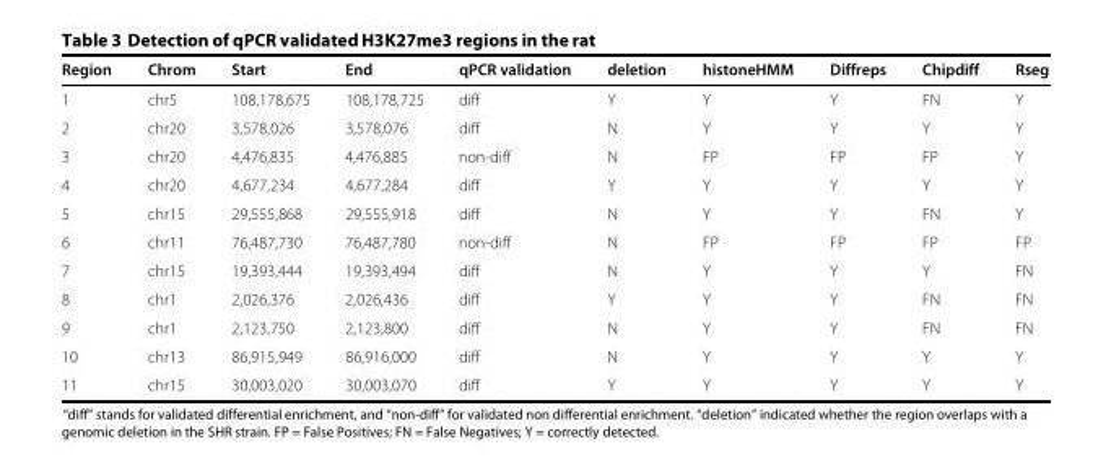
<table><thead><tr><td>Region</td><td>Chrom</td><td>Start</td><td>End</td><td>qPCR validation</td><td>deletion</td><td>histoneHMM</td><td>Diffreps</td><td>Chipdiff</td><td>Rseg</td></tr></thead><tbody><tr><td>1</td><td>chr5</td><td>108,178,675</td><td>108,178,725</td><td>diff</td><td>Y</td><td>Y</td><td>Y</td><td>FN</td><td>Y</td></tr><tr><td>2</td><td>chr20</td><td>3,578,026</td><td>3,578,076</td><td>diff</td><td>N</td><td>Y</td><td>Y</td><td>Y</td><td>Y</td></tr><tr><td>3</td><td>chr20</td><td>4,476,835</td><td>4,476,885</td><td>non-diff</td><td>N</td><td>FP</td><td>FP</td><td>FP</td><td>Y</td></tr><tr><td>4</td><td>chr20</td><td>4,677,234</td><td>4,677,284</td><td>diff</td><td>Y</td><td>Y</td><td>Y</td><td>Y</td><td>Y</td></tr><tr><td>5</td><td>chr15</td><td>29,555,868</td><td>29,555,918</td><td>diff</td><td>N</td><td>Y</td><td>Y</td><td>FN</td><td>Y</td></tr><tr><td>6</td><td>chr11</td><td>76,487,730</td><td>76,487,780</td><td>non-diff</td><td>N</td><td>FP</td><td>FP</td><td>FP</td><td>FP</td></tr><tr><td>7</td><td>chr15</td><td>19,393,444</td><td>19,393,494</td><td>diff</td><td>N</td><td>Y</td><td>Y</td><td>Y</td><td>FN</td></tr><tr><td>8</td><td>chr1</td><td>2,026,376</td><td>2,026,436</td><td>diff</td><td>Y</td><td>Y</td><td>Y</td><td>FN</td><td>FN</td></tr><tr><td>9</td><td>chr1</td><td>2,123,750</td><td>2,123,800</td><td>diff</td><td>N</td><td>Y</td><td>Y</td><td>FN</td><td>FN</td></tr><tr><td>10</td><td>chr13</td><td>86,915,949</td><td>86,916,000</td><td>diff</td><td>N</td><td>Y</td><td>Y</td><td>Y</td><td>Y</td></tr><tr><td>11</td><td>chr15</td><td>30,003,020</td><td>30,003,070</td><td>diff</td><td>Y</td><td>Y</td><td>Y</td><td>Y</td><td>Y</td></tr></tbody></table>